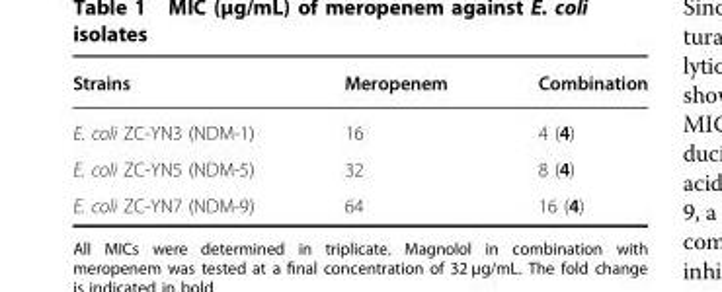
<table><thead><tr><td>Strains</td><td>Meropenem</td><td>Combination</td></tr></thead><tbody><tr><td>E. coli ZC-YN3 (NDM-1)</td><td>16</td><td>4 (4)</td></tr><tr><td>E. coli ZC-YN5 (NDM-5)</td><td>32</td><td>8 (4)</td></tr><tr><td>E. coli ZC-YN7 (NDM-9)</td><td>64</td><td>16 (4)</td></tr></tbody></table>